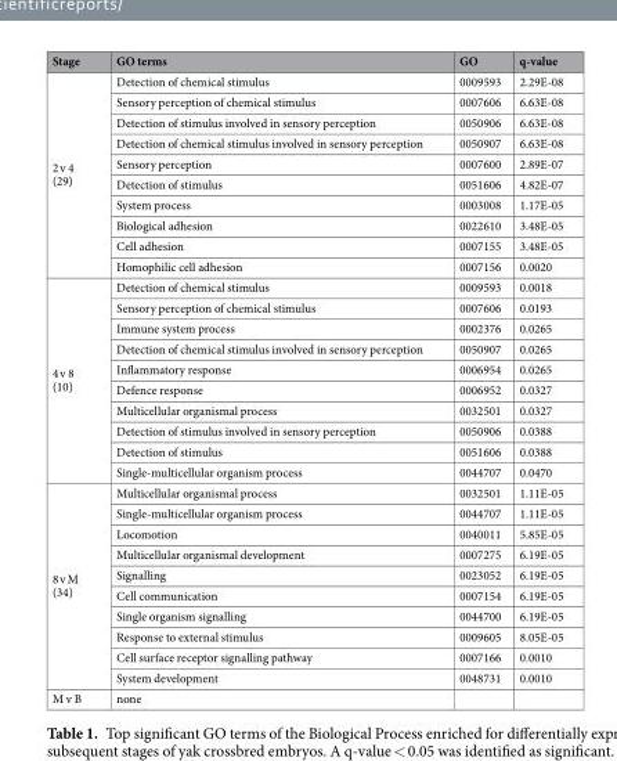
<table><thead><tr><td>Stage</td><td>GO terms</td><td>GO</td><td>q-value</td></tr></thead><tbody><tr><td rowspan="10">2 v 4 (29)</td><td>Detection of chemical stimulus</td><td>0009593</td><td>2.29E-08</td></tr><tr><td>Sensory perception of chemical stimulus</td><td>0007606</td><td>6.63E-08</td></tr><tr><td>Detection of stimulus involved in sensory perception</td><td>0050906</td><td>6.63E-08</td></tr><tr><td>Detection of chemical stimulus involved in sensory perception</td><td>0050907</td><td>6.63E-08</td></tr><tr><td>Sensory perception</td><td>0007600</td><td>2.89E-07</td></tr><tr><td>Detection of stimulus</td><td>0051606</td><td>4.82E-07</td></tr><tr><td>System process</td><td>0003008</td><td>1.17E-05</td></tr><tr><td>Biological adhesion</td><td>0022610</td><td>3.48E-05</td></tr><tr><td>Cell adhesion</td><td>0007155</td><td>3.48E-05</td></tr><tr><td>Homophilic cell adhesion</td><td>0007156</td><td>0.0020</td></tr><tr><td rowspan="10">4 v 8 (10)</td><td>Detection of chemical stimulus</td><td>0009593</td><td>0.0018</td></tr><tr><td>Sensory perception of chemical stimulus</td><td>0007606</td><td>0.0193</td></tr><tr><td>Immune system process</td><td>0002376</td><td>0.0265</td></tr><tr><td>Detection of chemical stimulus involved in sensory perception</td><td>0050907</td><td>0.0265</td></tr><tr><td>Inflammatory response</td><td>0006954</td><td>0.0265</td></tr><tr><td>Defence response</td><td>0006952</td><td>0.0327</td></tr><tr><td>Multicellular organismal process</td><td>0032501</td><td>0.0327</td></tr><tr><td>Detection of stimulus involved in sensory perception</td><td>0050906</td><td>0.0388</td></tr><tr><td>Detection of stimulus</td><td>0051606</td><td>0.0388</td></tr><tr><td>Single-multicellular organism process</td><td>0044707</td><td>0.0470</td></tr><tr><td rowspan="10">8 v M (34)</td><td>Multicellular organismal process</td><td>0032501</td><td>1.11E-05</td></tr><tr><td>Single-multicellular organism process</td><td>0044707</td><td>1.11E-05</td></tr><tr><td>Locomotion</td><td>0040011</td><td>5.85E-05</td></tr><tr><td>Multicellular organismal development</td><td>0007275</td><td>6.19E-05</td></tr><tr><td>Signalling</td><td>0023052</td><td>6.19E-05</td></tr><tr><td>Cell communication</td><td>0007154</td><td>6.19E-05</td></tr><tr><td>Single organism signalling</td><td>0044700</td><td>6.19E-05</td></tr><tr><td>Response to external stimulus</td><td>0009605</td><td>8.05E-05</td></tr><tr><td>Cell surface receptor signalling pathway</td><td>0007166</td><td>0.0010</td></tr><tr><td>System development</td><td>0048731</td><td>0.0010</td></tr><tr><td>M v B</td><td>none</td><td></td><td></td></tr></tbody></table>